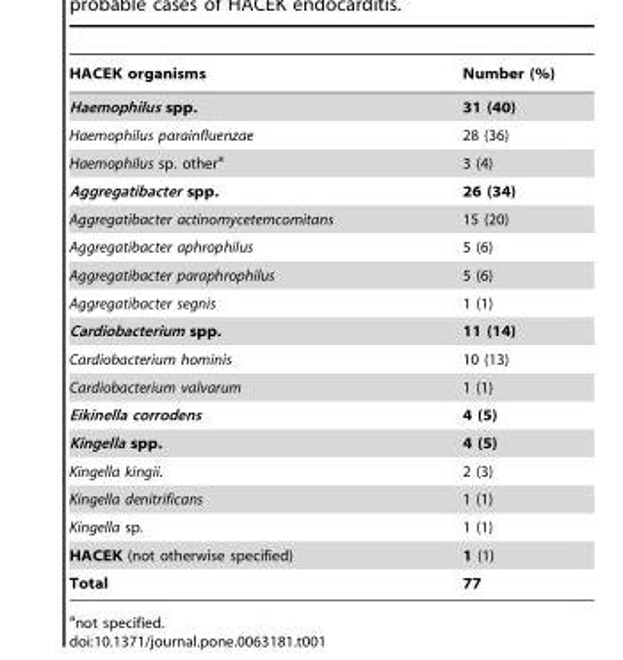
<table><thead><tr><td>HACEK organisms</td><td>Number (%)</td></tr></thead><tbody><tr><td>Haemophilus spp.</td><td>31 (40)</td></tr><tr><td>Haemophilus parainfluenzae</td><td>28 (36)</td></tr><tr><td>Haemophilus sp. other<sup>a</sup></td><td>3 (4)</td></tr><tr><td>Aggregatibacter spp.</td><td>26 (34)</td></tr><tr><td>Aggregatibacter actinomycetemcomitans</td><td>15 (20)</td></tr><tr><td>Aggregatibacter aphrophilus</td><td>5 (6)</td></tr><tr><td>Aggregatibacter paraphrophilus</td><td>5 (6)</td></tr><tr><td>Aggregatibacter segnis</td><td>1 (1)</td></tr><tr><td>Cardiobacterium spp.</td><td>11 (14)</td></tr><tr><td>Cardiobacterium hominis</td><td>10 (13)</td></tr><tr><td>Cardiobacterium valvarum</td><td>1 (1)</td></tr><tr><td>Eikinella corrodens</td><td>4 (5)</td></tr><tr><td>Kingella spp.</td><td>4 (5)</td></tr><tr><td>Kingella kingii.</td><td>2 (3)</td></tr><tr><td>Kingella denitrificans</td><td>1 (1)</td></tr><tr><td>Kingella sp.</td><td>1 (1)</td></tr><tr><td>HACEK (not otherwise specified)</td><td>1 (1)</td></tr><tr><td>Total</td><td>77</td></tr></tbody></table>